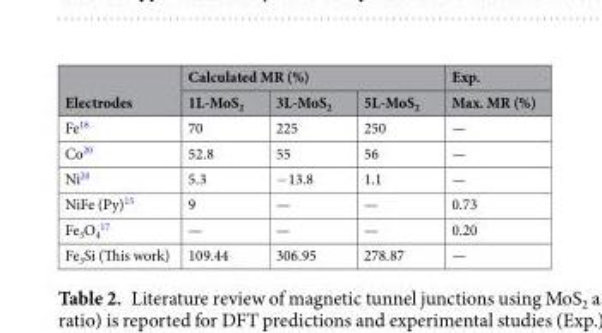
<table><thead><tr><td rowspan="2">Electrodes</td><td colspan="3">Calculated MR (%)</td><td rowspan="2">Exp. Max. MR (%)</td></tr><tr><td>1L-MoS<sub>2</sub></td><td>3L-MoS<sub>2</sub></td><td>5L-MoS<sub>2</sub></td></tr></thead><tbody><tr><td>Fe<sup>18</sup></td><td>70</td><td>225</td><td>250</td><td>—</td></tr><tr><td>Co<sup>20</sup></td><td>52.8</td><td>55</td><td>56</td><td>—</td></tr><tr><td>Ni<sup>20</sup></td><td>5.3</td><td>−13.8</td><td>1.1</td><td>—</td></tr><tr><td>NiFe (Py)<sup>15</sup></td><td>9</td><td>—</td><td>—</td><td>0.73</td></tr><tr><td>Fe<sub>3</sub>O<sub>4</sub> <sup>17</sup></td><td>—</td><td>—</td><td>—</td><td>0.20</td></tr><tr><td>Fe<sub>3</sub>Si (This work)</td><td>109.44</td><td>306.95</td><td>278.87</td><td>—</td></tr></tbody></table>